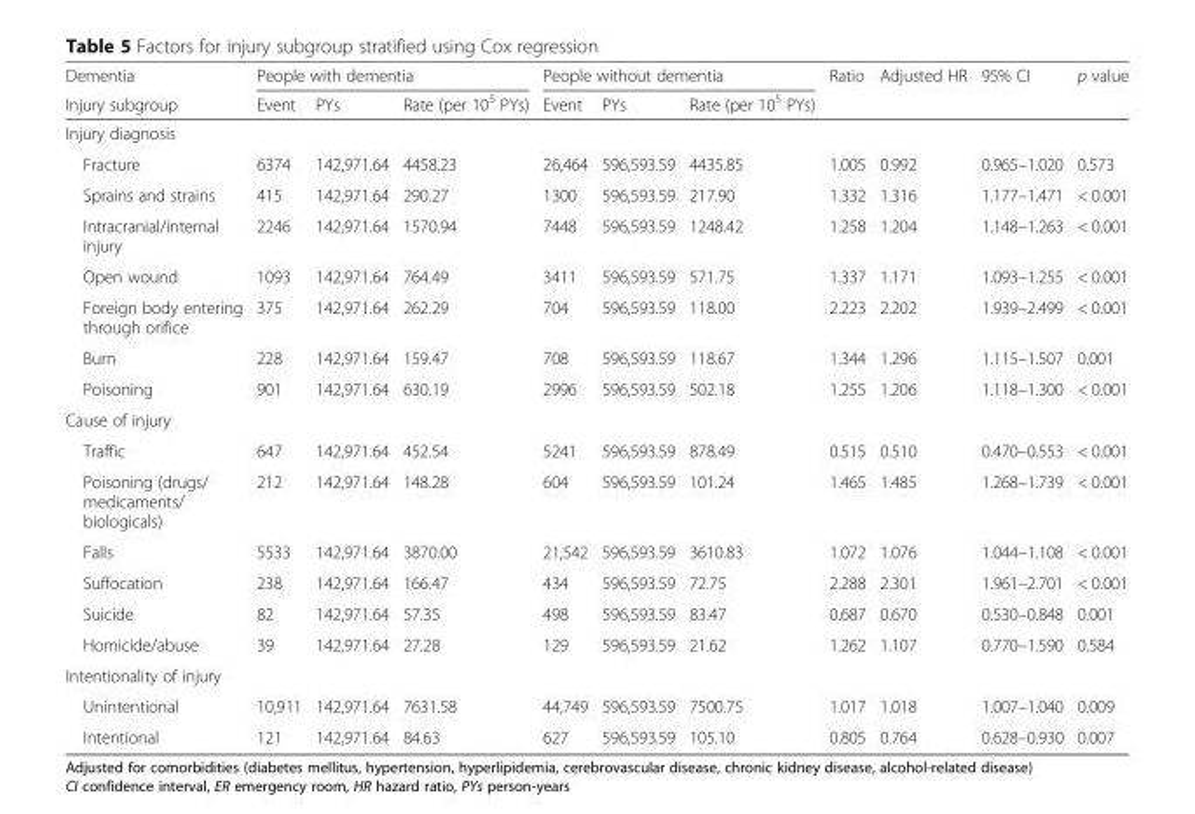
<table><thead><tr><td rowspan="2">Dementia Injury subgroup</td><td colspan="3">People with dementia</td><td colspan="3">People without dementia</td><td rowspan="2">Ratio</td><td rowspan="2">Adjusted HR</td><td rowspan="2">95% CI</td><td rowspan="2">p value</td></tr><tr><td>Event</td><td>PYs</td><td>Rate (per 10<sup>5</sup> PYs)</td><td>Event</td><td>PYs</td><td>Rate (per 10<sup>5</sup> PYs)</td></tr></thead><tbody><tr><td colspan="11">Injury diagnosis</td></tr><tr><td>Fracture</td><td>6374</td><td>142,971.64</td><td>4458.23</td><td>26,464</td><td>596,593.59</td><td>4435.85</td><td>1.005</td><td>0.992</td><td>0.965–1.020</td><td>0.573</td></tr><tr><td>Sprains and strains</td><td>415</td><td>142,971.64</td><td>290.27</td><td>1300</td><td>596,593.59</td><td>217.90</td><td>1.332</td><td>1.316</td><td>1.177–1.471</td><td>&lt; 0.001</td></tr><tr><td>Intracranial/internal injury</td><td>2246</td><td>142,971.64</td><td>1570.94</td><td>7448</td><td>596,593.59</td><td>1248.42</td><td>1.258</td><td>1.204</td><td>1.148–1.263</td><td>&lt; 0.001</td></tr><tr><td>Open wound</td><td>1093</td><td>142,971.64</td><td>764.49</td><td>3411</td><td>596,593.59</td><td>571.75</td><td>1.337</td><td>1.171</td><td>1.093–1.255</td><td>&lt; 0.001</td></tr><tr><td>Foreign body entering through orifice</td><td>375</td><td>142,971.64</td><td>262.29</td><td>704</td><td>596,593.59</td><td>118.00</td><td>2.223</td><td>2.202</td><td>1.939–2.499</td><td>&lt; 0.001</td></tr><tr><td>Burn</td><td>228</td><td>142,971.64</td><td>159.47</td><td>708</td><td>596,593.59</td><td>118.67</td><td>1.344</td><td>1.296</td><td>1.115–1.507</td><td>0.001</td></tr><tr><td>Poisoning</td><td>901</td><td>142,971.64</td><td>630.19</td><td>2996</td><td>596,593.59</td><td>502.18</td><td>1.255</td><td>1.206</td><td>1.118–1.300</td><td>&lt; 0.001</td></tr><tr><td colspan="11">Cause of injury</td></tr><tr><td>Traffic</td><td>647</td><td>142,971.64</td><td>452.54</td><td>5241</td><td>596,593.59</td><td>878.49</td><td>0.515</td><td>0.510</td><td>0.470–0.553</td><td>&lt; 0.001</td></tr><tr><td>Poisoning (drugs/ medicaments/ biologicals)</td><td>212</td><td>142,971.64</td><td>148.28</td><td>604</td><td>596,593.59</td><td>101.24</td><td>1.465</td><td>1.485</td><td>1.268–1.739</td><td>&lt; 0.001</td></tr><tr><td>Falls</td><td>5533</td><td>142,971.64</td><td>3870.00</td><td>21,542</td><td>596,593.59</td><td>3610.83</td><td>1.072</td><td>1.076</td><td>1.044–1.108</td><td>&lt; 0.001</td></tr><tr><td>Suffocation</td><td>238</td><td>142,971.64</td><td>166.47</td><td>434</td><td>596,593.59</td><td>72.75</td><td>2.288</td><td>2.301</td><td>1.961–2.701</td><td>&lt; 0.001</td></tr><tr><td>Suicide</td><td>82</td><td>142,971.64</td><td>57.35</td><td>498</td><td>596,593.59</td><td>83.47</td><td>0.687</td><td>0.670</td><td>0.530–0.848</td><td>0.001</td></tr><tr><td>Homicide/abuse</td><td>39</td><td>142,971.64</td><td>27.28</td><td>129</td><td>596,593.59</td><td>21.62</td><td>1.262</td><td>1.107</td><td>0.770–1.590</td><td>0.584</td></tr><tr><td colspan="11">Intentionality of injury</td></tr><tr><td>Unintentional</td><td>10,911</td><td>142,971.64</td><td>7631.58</td><td>44,749</td><td>596,593.59</td><td>7500.75</td><td>1.017</td><td>1.018</td><td>1.007–1.040</td><td>0.009</td></tr><tr><td>Intentional</td><td>121</td><td>142,971.64</td><td>84.63</td><td>627</td><td>596,593.59</td><td>105.10</td><td>0.805</td><td>0.764</td><td>0.628–0.930</td><td>0.007</td></tr></tbody></table>